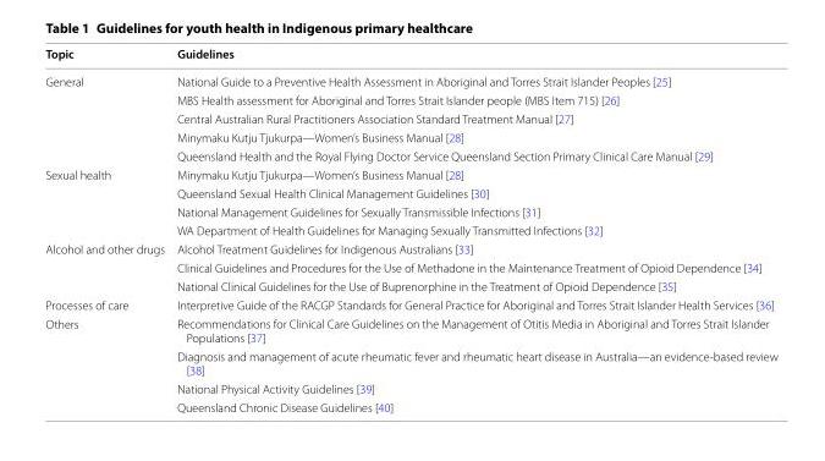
<table><thead><tr><td>Topic</td><td>Guidelines</td></tr></thead><tbody><tr><td rowspan="5">General</td><td>National Guide to a Preventive Health Assessment in Aboriginal and Torres Strait Islander Peoples [25]</td></tr><tr><td>MBS Health assessment for Aboriginal and Torres Strait Islander people (MBS Item 715) [26]</td></tr><tr><td>Central Australian Rural Practitioners Association Standard Treatment Manual [27]</td></tr><tr><td>Minymaku Kutju Tjukurpa—Women’s Business Manual [28]</td></tr><tr><td>Queensland Health and the Royal Flying Doctor Service Queensland Section Primary Clinical Care Manual [29]</td></tr><tr><td rowspan="4">Sexual health</td><td>Minymaku Kutju Tjukurpa—Women’s Business Manual [28]</td></tr><tr><td>Queensland Sexual Health Clinical Management Guidelines [30]</td></tr><tr><td>National Management Guidelines for Sexually Transmissible Infections [31]</td></tr><tr><td>WA Department of Health Guidelines for Managing Sexually Transmitted Infections [32]</td></tr><tr><td rowspan="3">Alcohol and other drugs</td><td>Alcohol Treatment Guidelines for Indigenous Australians [33]</td></tr><tr><td>Clinical Guidelines and Procedures for the Use of Methadone in the Maintenance Treatment of Opioid Dependence [34]</td></tr><tr><td>National Clinical Guidelines for the Use of Buprenorphine in the Treatment of Opioid Dependence [35]</td></tr><tr><td>Processes of care</td><td>Interpretive Guide of the RACGP Standards for General Practice for Aboriginal and Torres Strait Islander Health Services [36]</td></tr><tr><td rowspan="4">Others</td><td>Recommendations for Clinical Care Guidelines on the Management of Otitis Media in Aboriginal and Torres Strait Islander Populations [37]</td></tr><tr><td>Diagnosis and management of acute rheumatic fever and rheumatic heart disease in Australia—an evidence-based review [38]</td></tr><tr><td>National Physical Activity Guidelines [39]</td></tr><tr><td>Queensland Chronic Disease Guidelines [40]</td></tr></tbody></table>